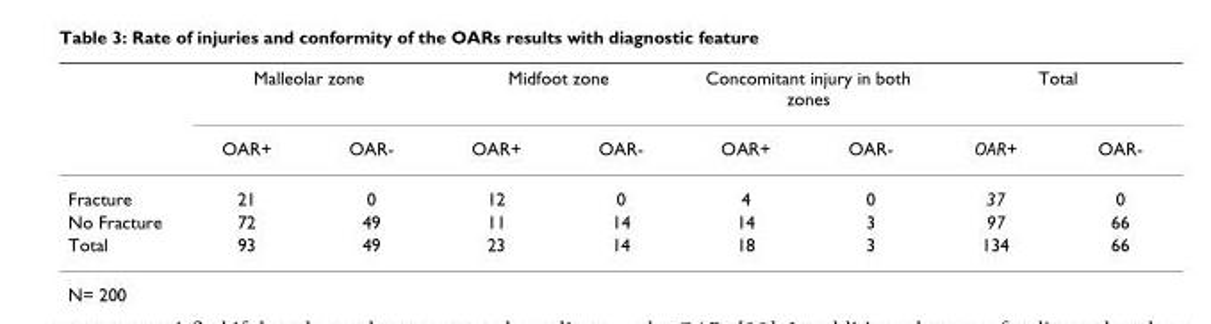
<table><thead><tr><td rowspan="2"></td><td colspan="2">Malleolar zone</td><td colspan="2">Midfoot zone</td><td colspan="2">Concomitant injury in both zones</td><td colspan="2">Total</td></tr><tr><td>OAR+</td><td>OAR-</td><td>OAR+</td><td>OAR-</td><td>OAR+</td><td>OAR-</td><td>OAR+</td><td>OAR-</td></tr></thead><tbody><tr><td>Fracture</td><td>21</td><td>0</td><td>12</td><td>0</td><td>4</td><td>0</td><td>37</td><td>0</td></tr><tr><td>No Fracture</td><td>72</td><td>49</td><td>11</td><td>14</td><td>14</td><td>3</td><td>97</td><td>66</td></tr><tr><td>Total</td><td>93</td><td>49</td><td>23</td><td>14</td><td>18</td><td>3</td><td>134</td><td>66</td></tr></tbody></table>